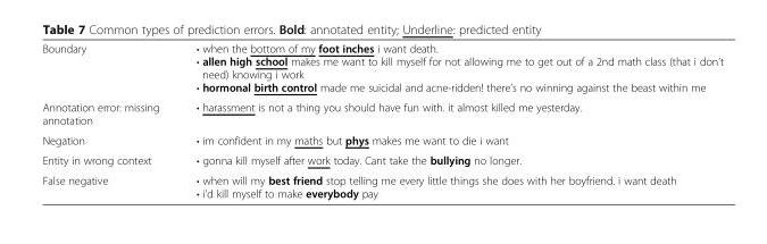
<table><tbody><tr><td>Boundary</td><td>• when the bottom of my foot inches i want death. • allen high school makes me want to kill myself for not allowing me to get out of a 2nd math class (that i don’t need) knowing i work • hormonal birth control made me suicidal and acne-ridden! there’s no winning against the beast within me</td></tr><tr><td>Annotation error: missing annotation</td><td>• harassment is not a thing you should have fun with. it almost killed me yesterday.</td></tr><tr><td>Negation</td><td>• im confident in my maths but phys makes me want to die i want</td></tr><tr><td>Entity in wrong context</td><td>• gonna kill myself after work today. Cant take the bullying no longer.</td></tr><tr><td>False negative</td><td>• when will my best friend stop telling me every little things she does with her boyfriend. i want death • i’d kill myself to make everybody pay</td></tr></tbody></table>